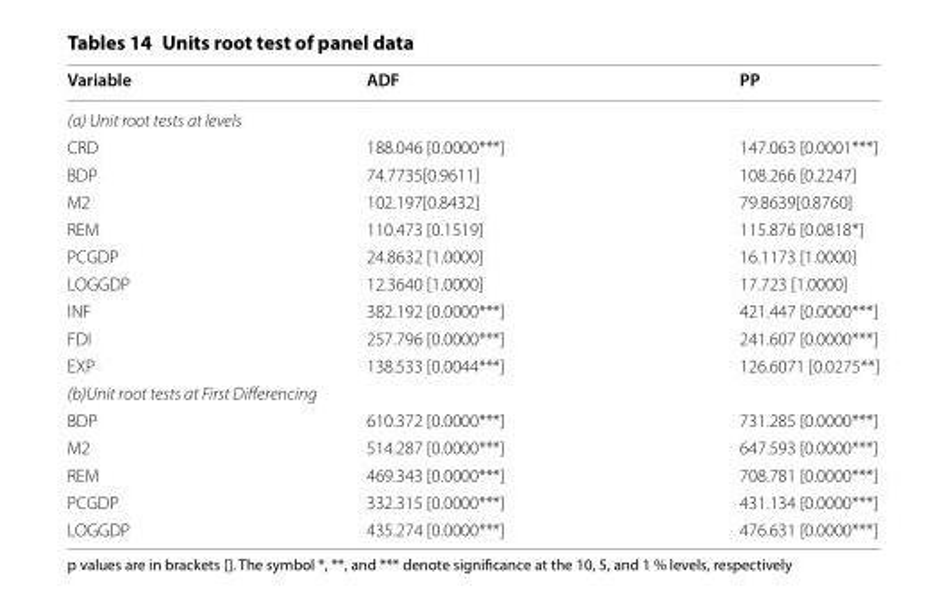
<table><thead><tr><td>Variable</td><td>ADF</td><td>PP</td></tr></thead><tbody><tr><td colspan="3">(a) Unit root tests at levels</td></tr><tr><td>CRD</td><td>188.046 [0.0000***]</td><td>147.063 [0.0001***]</td></tr><tr><td>BDP</td><td>74.7735[0.9611]</td><td>108.266 [0.2247]</td></tr><tr><td>M2</td><td>102.197[0.8432]</td><td>79.8639[0.8760]</td></tr><tr><td>REM</td><td>110.473 [0.1519]</td><td>115.876 [0.0818*]</td></tr><tr><td>PCGDP</td><td>24.8632 [1.0000]</td><td>16.1173 [1.0000]</td></tr><tr><td>LOGGDP</td><td>12.3640 [1.0000]</td><td>17.723 [1.0000]</td></tr><tr><td>INF</td><td>382.192 [0.0000***]</td><td>421.447 [0.0000***]</td></tr><tr><td>FDI</td><td>257.796 [0.0000***]</td><td>241.607 [0.0000***]</td></tr><tr><td>EXP</td><td>138.533 [0.0044***]</td><td>126.6071 [0.0275**]</td></tr><tr><td colspan="3">(b)Unit root tests at First Differencing</td></tr><tr><td>BDP</td><td>610.372 [0.0000***]</td><td>731.285 [0.0000***]</td></tr><tr><td>M2</td><td>514.287 [0.0000***]</td><td>647.593 [0.0000***]</td></tr><tr><td>REM</td><td>469.343 [0.0000***]</td><td>708.781 [0.0000***]</td></tr><tr><td>PCGDP</td><td>332.315 [0.0000***]</td><td>431.134 [0.0000***]</td></tr><tr><td>LOGGDP</td><td>435.274 [0.0000***]</td><td>476.631 [0.0000***]</td></tr></tbody></table>